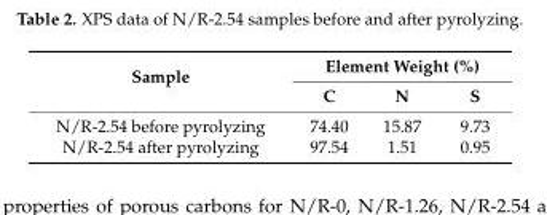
<table><thead><tr><td rowspan="2">Sample</td><td colspan="3">Element Weight (%)</td></tr><tr><td>C</td><td>N</td><td>S</td></tr></thead><tbody><tr><td>N/R-2.54 before pyrolyzing</td><td>74.40</td><td>15.87</td><td>9.73</td></tr><tr><td>N/R-2.54 after pyrolyzing</td><td>97.54</td><td>1.51</td><td>0.95</td></tr></tbody></table>